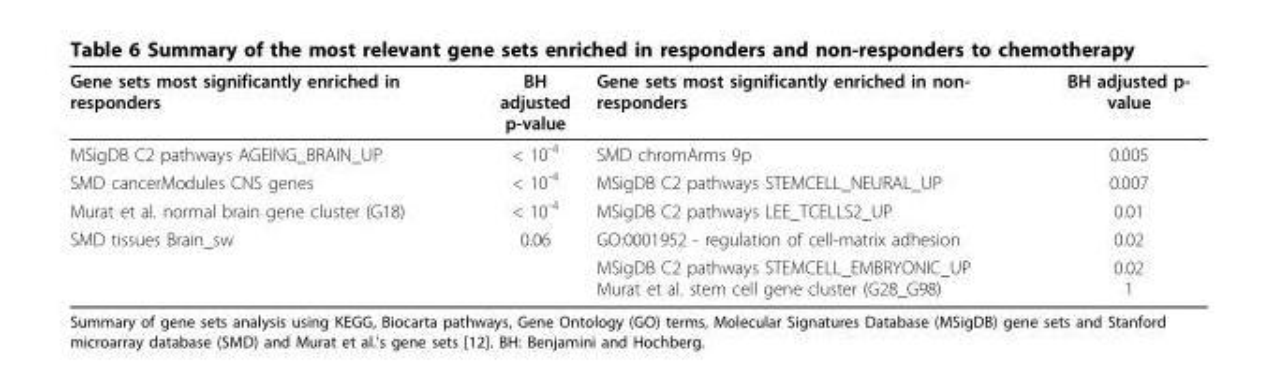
<table><thead><tr><td>Gene sets most significantly enriched in responders</td><td>BH adjusted p-value</td><td>Gene sets most significantly enriched in non- responders</td><td>BH adjusted p- value</td></tr></thead><tbody><tr><td>MSigDB C2 pathways AGEING_BRAIN_UP</td><td>&lt; 10<sup>-4</sup></td><td>SMD chromArms 9p</td><td>0.005</td></tr><tr><td>SMD cancerModules CNS genes</td><td>&lt; 10<sup>-4</sup></td><td>MSigDB C2 pathways STEMCELL_NEURAL_UP</td><td>0.007</td></tr><tr><td>Murat et al. normal brain gene cluster (G18)</td><td>&lt; 10<sup>-4</sup></td><td>MSigDB C2 pathways LEE_TCELLS2_UP</td><td>0.01</td></tr><tr><td rowspan="2">SMD tissues Brain_sw</td><td>0.06</td><td>GO:0001952 - regulation of cell-matrix adhesion</td><td>0.02</td></tr><tr><td></td><td>MSigDB C2 pathways STEMCELL_EMBRYONIC_UP Murat et al. stem cell gene cluster (G28_G98)</td><td>0.02 1</td></tr></tbody></table>